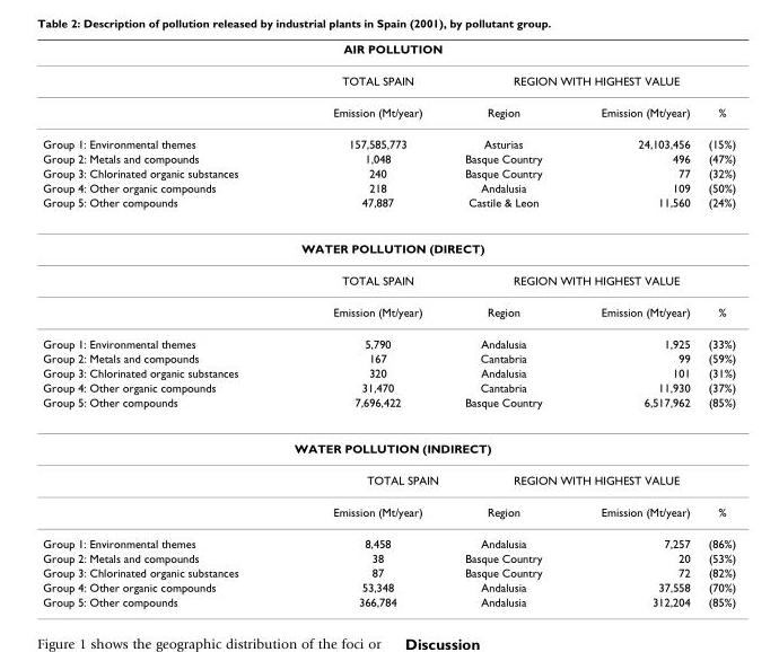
<table><thead><tr><td colspan="5">AIR POLLUTION</td></tr><tr><td rowspan="2"></td><td rowspan="2">TOTAL SPAIN Emission (Mt/year)</td><td colspan="3">REGION WITH HIGHEST VALUE</td></tr><tr><td>Region</td><td>Emission (Mt/year)</td><td>%</td></tr></thead><tbody><tr><td>Group 1: Environmental themes</td><td>157,585,773</td><td>Asturias</td><td>24,103,456</td><td>(15%)</td></tr><tr><td>Group 2: Metals and compounds</td><td>1,048</td><td>Basque Country</td><td>496</td><td>(47%)</td></tr><tr><td>Group 3: Chlorinated organic substances</td><td>240</td><td>Basque Country</td><td>77</td><td>(32%)</td></tr><tr><td>Group 4: Other organic compounds</td><td>218</td><td>Andalusia</td><td>109</td><td>(50%)</td></tr><tr><td>Group 5: Other compounds</td><td>47,887</td><td>Castile &amp; Leon</td><td>11,560</td><td>(24%)</td></tr><tr><td colspan="5">WATER POLLUTION (DIRECT)</td></tr><tr><td></td><td>TOTAL SPAIN</td><td colspan="3">REGION WITH HIGHEST VALUE</td></tr><tr><td></td><td>Emission (Mt/year)</td><td>Region</td><td>Emission (Mt/year)</td><td>%</td></tr><tr><td>Group 1: Environmental themes</td><td>5,790</td><td>Andalusia</td><td>1,925</td><td>(33%)</td></tr><tr><td>Group 2: Metals and compounds</td><td>167</td><td>Cantabria</td><td>99</td><td>(59%)</td></tr><tr><td>Group 3: Chlorinated organic substances</td><td>320</td><td>Andalusia</td><td>101</td><td>(31%)</td></tr><tr><td>Group 4: Other organic compounds</td><td>31,470</td><td>Cantabria</td><td>11,930</td><td>(37%)</td></tr><tr><td>Group 5: Other compounds</td><td>7,696,422</td><td>Basque Country</td><td>6,517,962</td><td>(85%)</td></tr><tr><td colspan="5">WATER POLLUTION (INDIRECT)</td></tr><tr><td></td><td>TOTAL SPAIN</td><td colspan="3">REGION WITH HIGHEST VALUE</td></tr><tr><td></td><td>Emission (Mt/year)</td><td>Region</td><td>Emission (Mt/year)</td><td>%</td></tr><tr><td>Group 1: Environmental themes</td><td>8,458</td><td>Andalusia</td><td>7,257</td><td>(86%)</td></tr><tr><td>Group 2: Metals and compounds</td><td>38</td><td>Basque Country</td><td>20</td><td>(53%)</td></tr><tr><td>Group 3: Chlorinated organic substances</td><td>87</td><td>Basque Country</td><td>72</td><td>(82%)</td></tr><tr><td>Group 4: Other organic compounds</td><td>53,348</td><td>Andalusia</td><td>37,558</td><td>(70%)</td></tr><tr><td>Group 5: Other compounds</td><td>366,784</td><td>Andalusia</td><td>312,204</td><td>(85%)</td></tr></tbody></table>